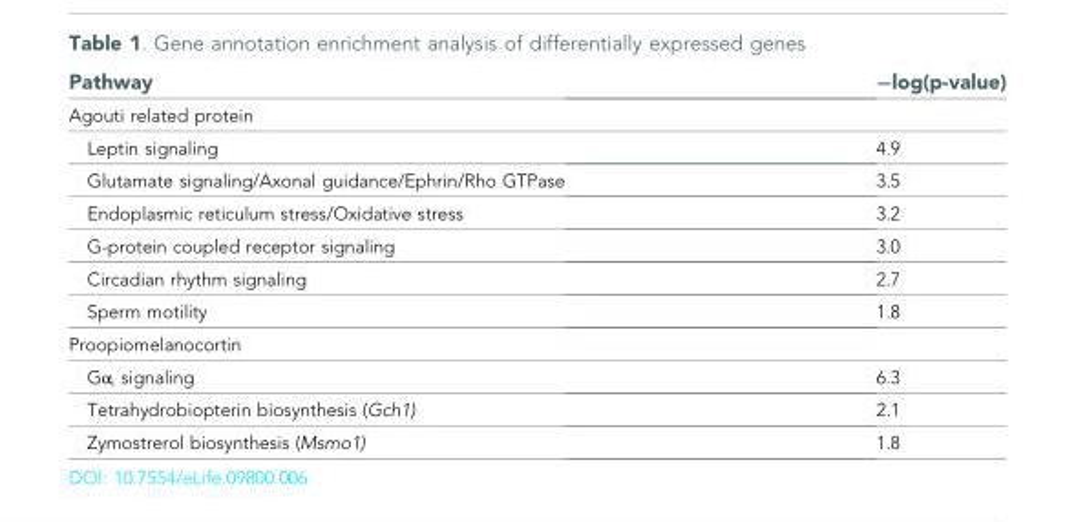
<table><thead><tr><td>Pathway</td><td>−log(p-value)</td></tr></thead><tbody><tr><td colspan="2">Agouti related protein</td></tr><tr><td>Leptin signaling</td><td>4.9</td></tr><tr><td>Glutamate signaling/Axonal guidance/Ephrin/Rho GTPase</td><td>3.5</td></tr><tr><td>Endoplasmic reticulum stress/Oxidative stress</td><td>3.2</td></tr><tr><td>G-protein coupled receptor signaling</td><td>3.0</td></tr><tr><td>Circadian rhythm signaling</td><td>2.7</td></tr><tr><td>Sperm motility</td><td>1.8</td></tr><tr><td colspan="2">Proopiomelanocortin</td></tr><tr><td>Gα<sub>i</sub> signaling</td><td>6.3</td></tr><tr><td>Tetrahydrobiopterin biosynthesis (Gch1)</td><td>2.1</td></tr><tr><td>Zymostrerol biosynthesis (Msmo1)</td><td>1.8</td></tr></tbody></table>